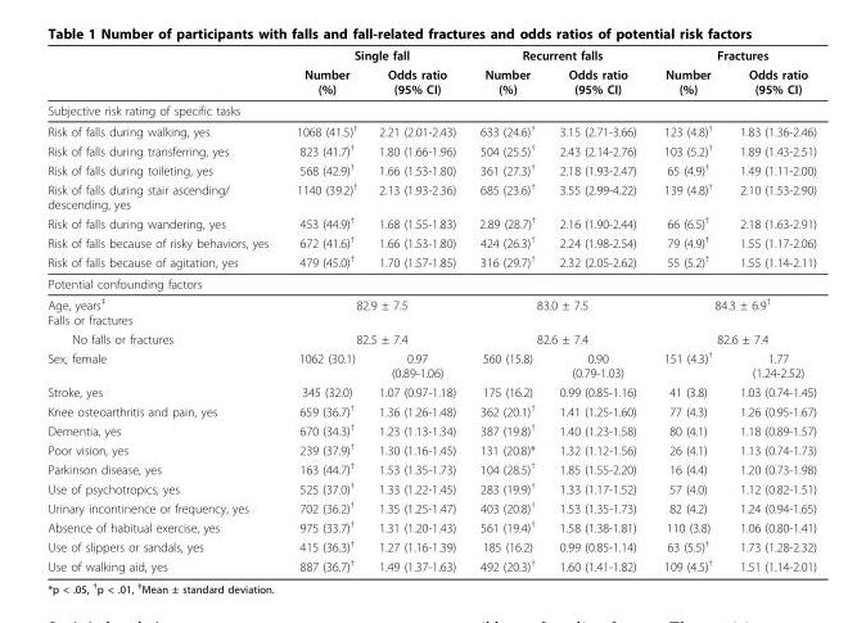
<table><thead><tr><td rowspan="2"></td><td colspan="2">Single fall</td><td colspan="2">Recurrent falls</td><td colspan="2">Fractures</td></tr><tr><td>Number (%)</td><td>Odds ratio (95% CI)</td><td>Number (%)</td><td>Odds ratio (95% CI)</td><td>Number (%)</td><td>Odds ratio (95% CI)</td></tr></thead><tbody><tr><td colspan="7">Subjective risk rating of specific tasks</td></tr><tr><td>Risk of falls during walking, yes</td><td>1068 (41.5)<sup>†</sup></td><td>2.21 (2.01-2.43)</td><td>633 (24.6)<sup>†</sup></td><td>3.15 (2.71-3.66)</td><td>123 (4.8)<sup>†</sup></td><td>1.83 (1.36-2.46)</td></tr><tr><td>Risk of falls during transferring, yes</td><td>823 (41.7)<sup>†</sup></td><td>1.80 (1.66-1.96)</td><td>504 (25.5)<sup>†</sup></td><td>2.43 (2.14-2.76)</td><td>103 (5.2)<sup>†</sup></td><td>1.89 (1.43-2.51)</td></tr><tr><td>Risk of falls during toileting, yes</td><td>568 (42.9)<sup>†</sup></td><td>1.66 (1.53-1.80)</td><td>361 (27.3)<sup>†</sup></td><td>2.18 (1.93-2.47)</td><td>65 (4.9)<sup>†</sup></td><td>1.49 (1.11-2.00)</td></tr><tr><td>Risk of falls during stair ascending/ descending, yes</td><td>1140 (39.2)<sup>†</sup></td><td>2.13 (1.93-2.36)</td><td>685 (23.6)<sup>†</sup></td><td>3.55 (2.99-4.22)</td><td>139 (4.8)<sup>†</sup></td><td>2.10 (1.53-2.90)</td></tr><tr><td>Risk of falls during wandering, yes</td><td>453 (44.9)<sup>†</sup></td><td>1.68 (1.55-1.83)</td><td>2.89 (28.7)<sup>†</sup></td><td>2.16 (1.90-2.44)</td><td>66 (6.5)<sup>†</sup></td><td>2.18 (1.63-2.91)</td></tr><tr><td>Risk of falls because of risky behaviors, yes</td><td>672 (41.6)<sup>†</sup></td><td>1.66 (1.53-1.80)</td><td>424 (26.3)<sup>†</sup></td><td>2.24 (1.98-2.54)</td><td>79 (4.9)<sup>†</sup></td><td>1.55 (1.17-2.06)</td></tr><tr><td>Risk of falls because of agitation, yes</td><td>479 (45.0)<sup>†</sup></td><td>1.70 (1.57-1.85)</td><td>316 (29.7)<sup>†</sup></td><td>2.32 (2.05-2.62)</td><td>55 (5.2)<sup>†</sup></td><td>1.55 (1.14-2.11)</td></tr><tr><td colspan="7">Potential confounding factors</td></tr><tr><td>Age, years<sup>‡</sup> Falls or fractures</td><td colspan="2">82.9 ± 7.5</td><td colspan="2">83.0 ± 7.5</td><td colspan="2">84.3 ± 6.9<sup>†</sup></td></tr><tr><td>No falls or fractures</td><td colspan="2">82.5 ± 7.4</td><td colspan="2">82.6 ± 7.4</td><td colspan="2">82.6 ± 7.4</td></tr><tr><td>Sex, female</td><td>1062 (30.1)</td><td>0.97 (0.89-1.06)</td><td>560 (15.8)</td><td>0.90 (0.79-1.03)</td><td>151 (4.3)<sup>†</sup></td><td>1.77 (1.24-2.52)</td></tr><tr><td>Stroke, yes</td><td>345 (32.0)</td><td>1.07 (0.97-1.18)</td><td>175 (16.2)</td><td>0.99 (0.85-1.16)</td><td>41 (3.8)</td><td>1.03 (0.74-1.45)</td></tr><tr><td>Knee osteoarthritis and pain, yes</td><td>659 (36.7)<sup>†</sup></td><td>1.36 (1.26-1.48)</td><td>362 (20.1)<sup>†</sup></td><td>1.41 (1.25-1.60)</td><td>77 (4.3)</td><td>1.26 (0.95-1.67)</td></tr><tr><td>Dementia, yes</td><td>670 (34.3)<sup>†</sup></td><td>1.23 (1.13-1.34)</td><td>387 (19.8)<sup>†</sup></td><td>1.40 (1.23-1.58)</td><td>80 (4.1)</td><td>1.18 (0.89-1.57)</td></tr><tr><td>Poor vision, yes</td><td>239 (37.9)<sup>†</sup></td><td>1.30 (1.16-1.45)</td><td>131 (20.8)*</td><td>1.32 (1.12-1.56)</td><td>26 (4.1)</td><td>1.13 (0.74-1.73)</td></tr><tr><td>Parkinson disease, yes</td><td>163 (44.7)<sup>†</sup></td><td>1.53 (1.35-1.73)</td><td>104 (28.5)<sup>†</sup></td><td>1.85 (1.55-2.20)</td><td>16 (4.4)</td><td>1.20 (0.73-1.98)</td></tr><tr><td>Use of psychotropics, yes</td><td>525 (37.0)<sup>†</sup></td><td>1.33 (1.22-1.45)</td><td>283 (19.9)<sup>†</sup></td><td>1.33 (1.17-1.52)</td><td>57 (4.0)</td><td>1.12 (0.82-1.51)</td></tr><tr><td>Urinary incontinence or frequency, yes</td><td>702 (36.2)<sup>†</sup></td><td>1.35 (1.25-1.47)</td><td>403 (20.8)<sup>†</sup></td><td>1.53 (1.35-1.73)</td><td>82 (4.2)</td><td>1.24 (0.94-1.65)</td></tr><tr><td>Absence of habitual exercise, yes</td><td>975 (33.7)<sup>†</sup></td><td>1.31 (1.20-1.43)</td><td>561 (19.4)<sup>†</sup></td><td>1.58 (1.38-1.81)</td><td>110 (3.8)</td><td>1.06 (0.80-1.41)</td></tr><tr><td>Use of slippers or sandals, yes</td><td>415 (36.3)<sup>†</sup></td><td>1.27 (1.16-1.39)</td><td>185 (16.2)</td><td>0.99 (0.85-1.14)</td><td>63 (5.5)<sup>†</sup></td><td>1.73 (1.28-2.32)</td></tr><tr><td>Use of walking aid, yes</td><td>887 (36.7)<sup>†</sup></td><td>1.49 (1.37-1.63)</td><td>492 (20.3)<sup>†</sup></td><td>1.60 (1.41-1.82)</td><td>109 (4.5)<sup>†</sup></td><td>1.51 (1.14-2.01)</td></tr></tbody></table>